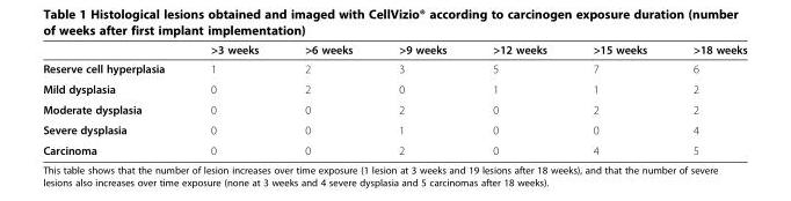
<table><thead><tr><td></td><td>&gt;3 weeks</td><td>&gt;6 weeks</td><td>&gt;9 weeks</td><td>&gt;12 weeks</td><td>&gt;15 weeks</td><td>&gt;18 weeks</td></tr></thead><tbody><tr><td>Reserve cell hyperplasia</td><td>1</td><td>2</td><td>3</td><td>5</td><td>7</td><td>6</td></tr><tr><td>Mild dysplasia</td><td>0</td><td>2</td><td>0</td><td>1</td><td>1</td><td>2</td></tr><tr><td>Moderate dysplasia</td><td>0</td><td>0</td><td>2</td><td>0</td><td>2</td><td>2</td></tr><tr><td>Severe dysplasia</td><td>0</td><td>0</td><td>1</td><td>0</td><td>0</td><td>4</td></tr><tr><td>Carcinoma</td><td>0</td><td>0</td><td>2</td><td>0</td><td>4</td><td>5</td></tr></tbody></table>